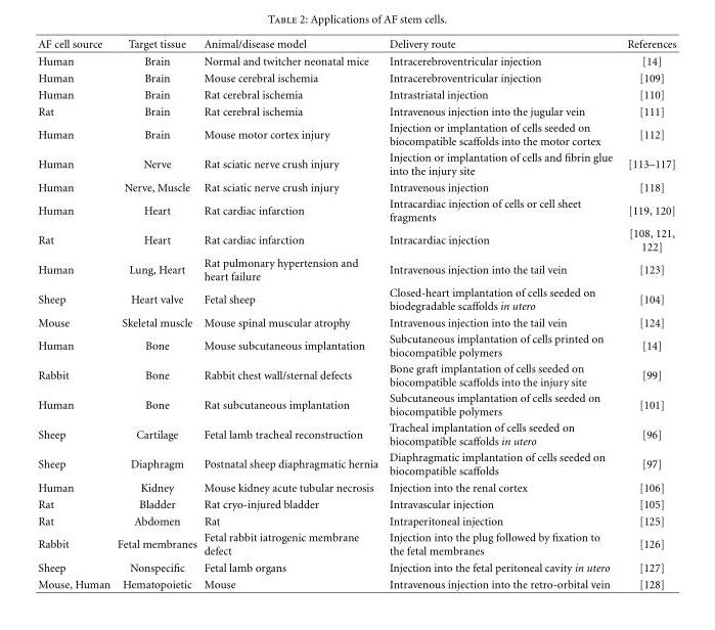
<table><thead><tr><td>AF cell source</td><td>Target tissue</td><td>Animal/disease model</td><td>Delivery route</td><td>References</td></tr></thead><tbody><tr><td>Human</td><td>Brain</td><td>Normal and twitcher neonatal mice</td><td>Intracerebroventricular injection</td><td>[14]</td></tr><tr><td>Human</td><td>Brain</td><td>Mouse cerebral ischemia</td><td>Intracerebroventricular injection</td><td>[109]</td></tr><tr><td>Human</td><td>Brain</td><td>Rat cerebral ischemia</td><td>Intrastriatal injection</td><td>[110]</td></tr><tr><td>Rat</td><td>Brain</td><td>Rat cerebral ischemia</td><td>Intravenous injection into the jugular vein</td><td>[111]</td></tr><tr><td>Human</td><td>Brain</td><td>Mouse motor cortex injury</td><td>Injection or implantation of cells seeded on biocompatible scaffolds into the motor cortex</td><td>[112]</td></tr><tr><td>Human</td><td>Nerve</td><td>Rat sciatic nerve crush injury</td><td>Injection or implantation of cells and fibrin glue into the injury site</td><td>[113–117]</td></tr><tr><td>Human</td><td>Nerve, Muscle</td><td>Rat sciatic nerve crush injury</td><td>Intravenous injection</td><td>[118]</td></tr><tr><td>Human</td><td>Heart</td><td>Rat cardiac infarction</td><td>Intracardiac injection of cells or cell sheet fragments</td><td>[119, 120]</td></tr><tr><td>Rat</td><td>Heart</td><td>Rat cardiac infarction</td><td>Intracardiac injection</td><td>[108, 121, 122]</td></tr><tr><td>Human</td><td>Lung, Heart</td><td>Rat pulmonary hypertension and heart failure</td><td>Intravenous injection into the tail vein</td><td>[123]</td></tr><tr><td>Sheep</td><td>Heart valve</td><td>Fetal sheep</td><td>Closed-heart implantation of cells seeded on biodegradable scaffolds in utero</td><td>[104]</td></tr><tr><td>Mouse</td><td>Skeletal muscle</td><td>Mouse spinal muscular atrophy</td><td>Intravenous injection into the tail vein</td><td>[124]</td></tr><tr><td>Human</td><td>Bone</td><td>Mouse subcutaneous implantation</td><td>Subcutaneous implantation of cells printed on biocompatible polymers</td><td>[14]</td></tr><tr><td>Rabbit</td><td>Bone</td><td>Rabbit chest wall/sternal defects</td><td>Bone graft implantation of cells seeded on biocompatible scaffolds into the injury site</td><td>[99]</td></tr><tr><td>Human</td><td>Bone</td><td>Rat subcutaneous implantation</td><td>Subcutaneous implantation of cells seeded on biocompatible polymers</td><td>[101]</td></tr><tr><td>Sheep</td><td>Cartilage</td><td>Fetal lamb tracheal reconstruction</td><td>Tracheal implantation of cells seeded on biocompatible scaffolds in utero</td><td>[96]</td></tr><tr><td>Sheep</td><td>Diaphragm</td><td>Postnatal sheep diaphragmatic hernia</td><td>Diaphragmatic implantation of cells seeded on biocompatible scaffolds</td><td>[97]</td></tr><tr><td>Human</td><td>Kidney</td><td>Mouse kidney acute tubular necrosis</td><td>Injection into the renal cortex</td><td>[106]</td></tr><tr><td>Rat</td><td>Bladder</td><td>Rat cryo-injured bladder</td><td>Intravascular injection</td><td>[105]</td></tr><tr><td>Rat</td><td>Abdomen</td><td>Rat</td><td>Intraperitoneal injection</td><td>[125]</td></tr><tr><td>Rabbit</td><td>Fetal membranes</td><td>Fetal rabbit iatrogenic membrane defect</td><td>Injection into the plug followed by fixation to the fetal membranes</td><td>[126]</td></tr><tr><td>Sheep</td><td>Nonspecific</td><td>Fetal lamb organs</td><td>Injection into the fetal peritoneal cavity in utero</td><td>[127]</td></tr><tr><td>Mouse, Human</td><td>Hematopoietic</td><td>Mouse</td><td>Intravenous injection into the retro-orbital vein</td><td>[128]</td></tr></tbody></table>